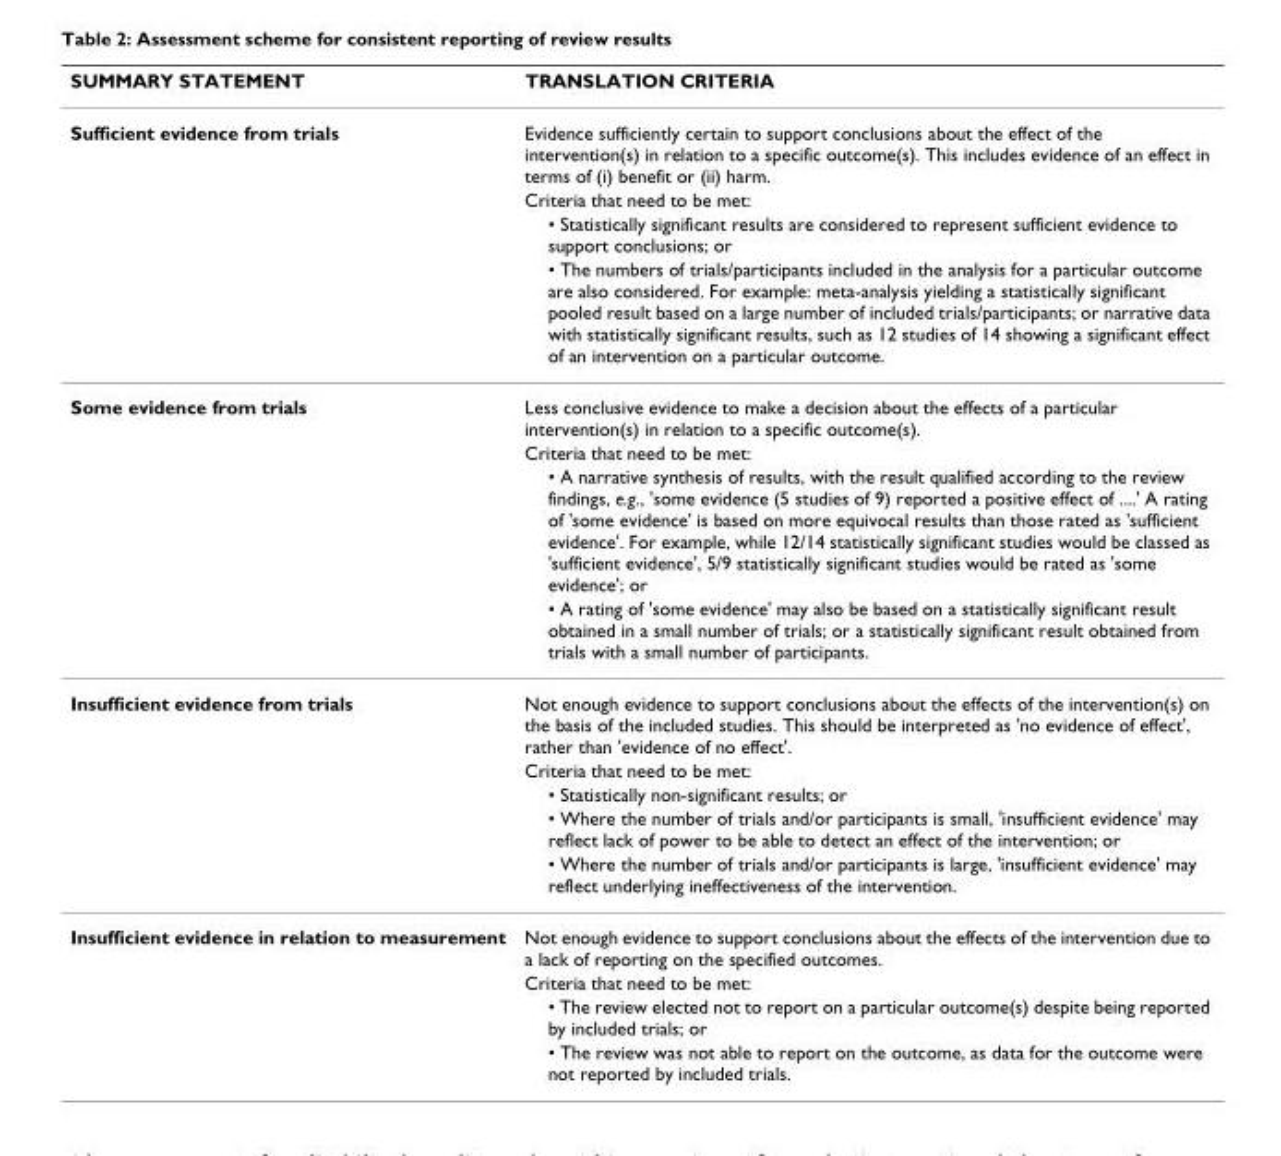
<table><thead><tr><td>SUMMARY STATEMENT</td><td>TRANSLATION CRITERIA</td></tr></thead><tbody><tr><td rowspan="4">Sufficient evidence from trials</td><td>Evidence sufficiently certain to support conclusions about the effect of the intervention(s) in relation to a specific outcome(s). This includes evidence of an effect in terms of (i) benefit or (ii) harm.</td></tr><tr><td>Criteria that need to be met:</td></tr><tr><td>• Statistically significant results are considered to represent sufficient evidence to support conclusions; or</td></tr><tr><td>• The numbers of trials/participants included in the analysis for a particular outcome are also considered. For example: meta-analysis yielding a statistically significant pooled result based on a large number of included trials/participants; or narrative data with statistically significant results, such as 12 studies of 14 showing a significant effect of an intervention on a particular outcome.</td></tr><tr><td rowspan="4">Some evidence from trials</td><td>Less conclusive evidence to make a decision about the effects of a particular intervention(s) in relation to a specific outcome(s).</td></tr><tr><td>Criteria that need to be met:</td></tr><tr><td>• A narrative synthesis of results, with the result qualified according to the review findings, e.g., &#x27;some evidence (5 studies of 9) reported a positive effect of ....&#x27; A rating of &#x27;some evidence&#x27; is based on more equivocal results than those rated as &#x27;sufficient evidence&#x27;. For example, while 12/14 statistically significant studies would be classed as &#x27;sufficient evidence&#x27;, 5/9 statistically significant studies would be rated as &#x27;some evidence&#x27;; or</td></tr><tr><td>• A rating of &#x27;some evidence&#x27; may also be based on a statistically significant result obtained in a small number of trials; or a statistically significant result obtained from trials with a small number of participants.</td></tr><tr><td rowspan="5">Insufficient evidence from trials</td><td>Not enough evidence to support conclusions about the effects of the intervention(s) on the basis of the included studies. This should be interpreted as &#x27;no evidence of effect&#x27;, rather than &#x27;evidence of no effect&#x27;.</td></tr><tr><td>Criteria that need to be met:</td></tr><tr><td>• Statistically non-significant results; or</td></tr><tr><td>• Where the number of trials and/or participants is small, &#x27;insufficient evidence&#x27; may reflect lack of power to be able to detect an effect of the intervention; or</td></tr><tr><td>• Where the number of trials and/or participants is large, &#x27;insufficient evidence&#x27; may reflect underlying ineffectiveness of the intervention.</td></tr><tr><td rowspan="4">Insufficient evidence in relation to measurement</td><td>Not enough evidence to support conclusions about the effects of the intervention due to a lack of reporting on the specified outcomes.</td></tr><tr><td>Criteria that need to be met:</td></tr><tr><td>• The review elected not to report on a particular outcome(s) despite being reported by included trials; or</td></tr><tr><td>• The review was not able to report on the outcome, as data for the outcome were not reported by included trials.</td></tr></tbody></table>